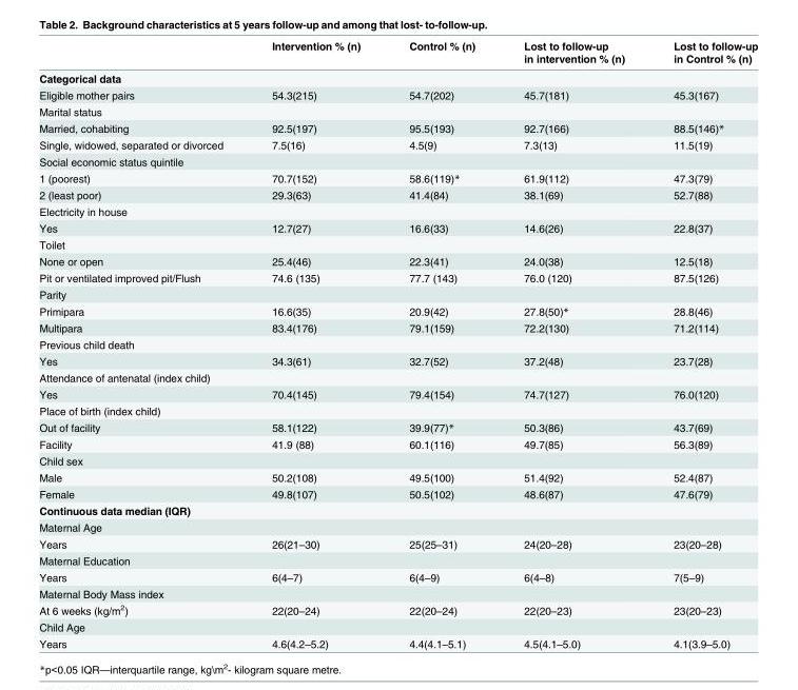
<table><thead><tr><td></td><td>Intervention % (n)</td><td>Control % (n)</td><td>Lost to follow-up in intervention % (n)</td><td>Lost to follow-up in Control % (n)</td></tr></thead><tbody><tr><td colspan="5">Categorical data</td></tr><tr><td>Eligible mother pairs</td><td>54.3(215)</td><td>54.7(202)</td><td>45.7(181)</td><td>45.3(167)</td></tr><tr><td colspan="5">Marital status</td></tr><tr><td>Married, cohabiting</td><td>92.5(197)</td><td>95.5(193)</td><td>92.7(166)</td><td>88.5(146)*</td></tr><tr><td>Single, widowed, separated or divorced</td><td>7.5(16)</td><td>4.5(9)</td><td>7.3(13)</td><td>11.5(19)</td></tr><tr><td colspan="5">Social economic status quintile</td></tr><tr><td>1 (poorest)</td><td>70.7(152)</td><td>58.6(119)*</td><td>61.9(112)</td><td>47.3(79)</td></tr><tr><td>2 (least poor)</td><td>29.3(63)</td><td>41.4(84)</td><td>38.1(69)</td><td>52.7(88)</td></tr><tr><td colspan="5">Electricity in house</td></tr><tr><td>Yes</td><td>12.7(27)</td><td>16.6(33)</td><td>14.6(26)</td><td>22.8(37)</td></tr><tr><td colspan="5">Toilet</td></tr><tr><td>None or open</td><td>25.4(46)</td><td>22.3(41)</td><td>24.0(38)</td><td>12.5(18)</td></tr><tr><td>Pit or ventilated improved pit/Flush</td><td>74.6 (135)</td><td>77.7 (143)</td><td>76.0 (120)</td><td>87.5(126)</td></tr><tr><td colspan="5">Parity</td></tr><tr><td>Primipara</td><td>16.6(35)</td><td>20.9(42)</td><td>27.8(50)*</td><td>28.8(46)</td></tr><tr><td>Multipara</td><td>83.4(176)</td><td>79.1(159)</td><td>72.2(130)</td><td>71.2(114)</td></tr><tr><td colspan="5">Previous child death</td></tr><tr><td>Yes</td><td>34.3(61)</td><td>32.7(52)</td><td>37.2(48)</td><td>23.7(28)</td></tr><tr><td colspan="5">Attendance of antenatal (index child)</td></tr><tr><td>Yes</td><td>70.4(145)</td><td>79.4(154)</td><td>74.7(127)</td><td>76.0(120)</td></tr><tr><td colspan="5">Place of birth (index child)</td></tr><tr><td>Out of facility</td><td>58.1(122)</td><td>39.9(77)*</td><td>50.3(86)</td><td>43.7(69)</td></tr><tr><td>Facility</td><td>41.9 (88)</td><td>60.1(116)</td><td>49.7(85)</td><td>56.3(89)</td></tr><tr><td colspan="5">Child sex</td></tr><tr><td>Male</td><td>50.2(108)</td><td>49.5(100)</td><td>51.4(92)</td><td>52.4(87)</td></tr><tr><td>Female</td><td>49.8(107)</td><td>50.5(102)</td><td>48.6(87)</td><td>47.6(79)</td></tr><tr><td colspan="5">Continuous data median (IQR)</td></tr><tr><td colspan="5">Maternal Age</td></tr><tr><td>Years</td><td>26(21–30)</td><td>25(25–31)</td><td>24(20–28)</td><td>23(20–28)</td></tr><tr><td colspan="5">Maternal Education</td></tr><tr><td>Years</td><td>6(4–7)</td><td>6(4–9)</td><td>6(4–8)</td><td>7(5–9)</td></tr><tr><td colspan="5">Maternal Body Mass index</td></tr><tr><td>At 6 weeks (kg/m<sup>2</sup>)</td><td>22(20–24)</td><td>22(20–24)</td><td>22(20–23)</td><td>23(20–23)</td></tr><tr><td colspan="5">Child Age</td></tr><tr><td>Years</td><td>4.6(4.2–5.2)</td><td>4.4(4.1–5.1)</td><td>4.5(4.1–5.0)</td><td>4.1(3.9–5.0)</td></tr></tbody></table>